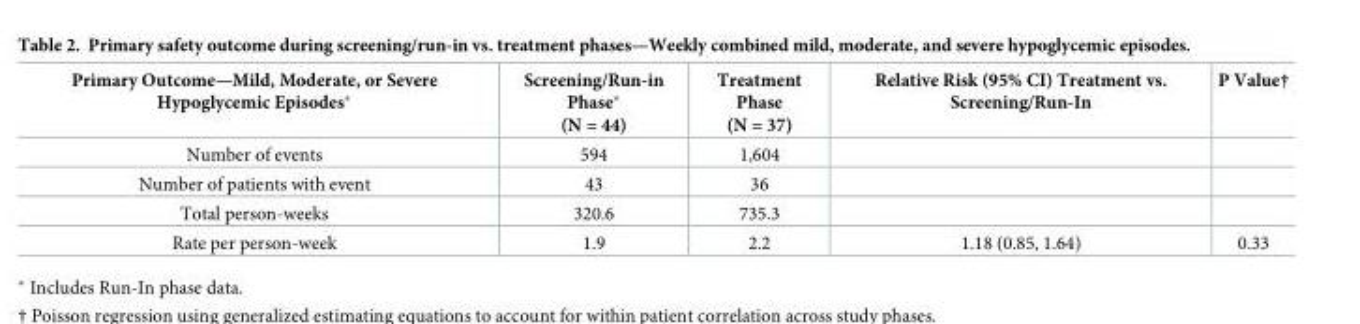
<table><thead><tr><td>Primary Outcome—Mild, Moderate, or Severe Hypoglycemic Episodes*</td><td>Screening/Run-in Phase* (N = 44)</td><td>Treatment Phase (N = 37)</td><td>Relative Risk (95% CI) Treatment vs. Screening/Run-In</td><td>P Value†</td></tr></thead><tbody><tr><td>Number of events</td><td>594</td><td>1,604</td><td></td><td></td></tr><tr><td>Number of patients with event</td><td>43</td><td>36</td><td></td><td></td></tr><tr><td>Total person-weeks</td><td>320.6</td><td>735.3</td><td></td><td></td></tr><tr><td>Rate per person-week</td><td>1.9</td><td>2.2</td><td>1.18 (0.85, 1.64)</td><td>0.33</td></tr></tbody></table>